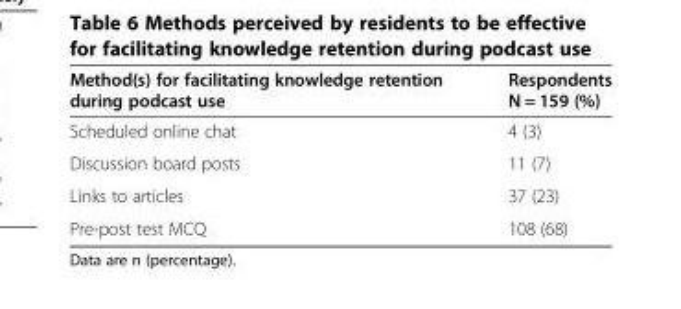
<table><thead><tr><td>Method(s) for facilitating knowledge retention during podcast use</td><td>Respondents N = 159 (%)</td></tr></thead><tbody><tr><td>Scheduled online chat</td><td>4 (3)</td></tr><tr><td>Discussion board posts</td><td>11 (7)</td></tr><tr><td>Links to articles</td><td>37 (23)</td></tr><tr><td>Pre-post test MCQ</td><td>108 (68)</td></tr></tbody></table>